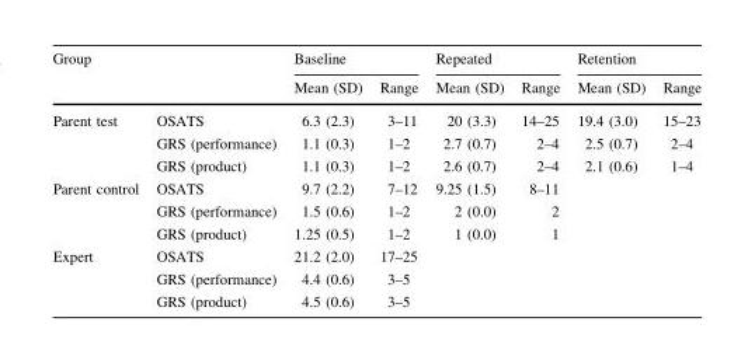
<table><thead><tr><td rowspan="2">Group</td><td rowspan="2"></td><td colspan="2">Baseline</td><td colspan="2">Repeated</td><td colspan="2">Retention</td></tr><tr><td>Mean (SD)</td><td>Range</td><td>Mean (SD)</td><td>Range</td><td>Mean (SD)</td><td>Range</td></tr></thead><tbody><tr><td rowspan="3">Parent test</td><td>OSATS</td><td>6.3 (2.3)</td><td>3–11</td><td>20 (3.3)</td><td>14–25</td><td>19.4 (3.0)</td><td>15–23</td></tr><tr><td>GRS (performance)</td><td>1.1 (0.3)</td><td>1–2</td><td>2.7 (0.7)</td><td>2–4</td><td>2.5 (0.7)</td><td>2–4</td></tr><tr><td>GRS (product)</td><td>1.1 (0.3)</td><td>1–2</td><td>2.6 (0.7)</td><td>2–4</td><td>2.1 (0.6)</td><td>1–4</td></tr><tr><td rowspan="3">Parent control</td><td>OSATS</td><td>9.7 (2.2)</td><td>7–12</td><td>9.25 (1.5)</td><td>8–11</td><td></td><td></td></tr><tr><td>GRS (performance)</td><td>1.5 (0.6)</td><td>1–2</td><td>2 (0.0)</td><td>2</td><td></td><td></td></tr><tr><td>GRS (product)</td><td>1.25 (0.5)</td><td>1–2</td><td>1 (0.0)</td><td>1</td><td></td><td></td></tr><tr><td rowspan="3">Expert</td><td>OSATS</td><td>21.2 (2.0)</td><td>17–25</td><td></td><td></td><td></td><td></td></tr><tr><td>GRS (performance)</td><td>4.4 (0.6)</td><td>3–5</td><td></td><td></td><td></td><td></td></tr><tr><td>GRS (product)</td><td>4.5 (0.6)</td><td>3–5</td><td></td><td></td><td></td><td></td></tr></tbody></table>